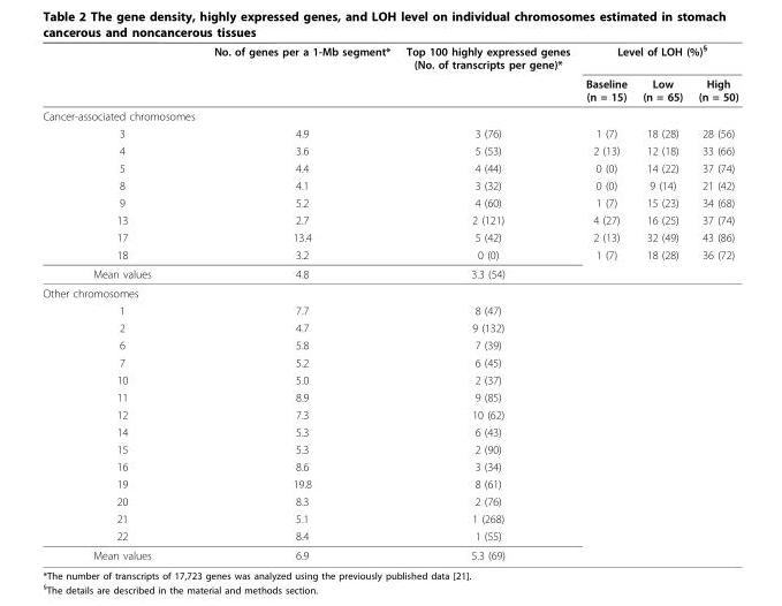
<table><thead><tr><td rowspan="2"></td><td rowspan="2">No. of genes per a 1-Mb segment*</td><td rowspan="2">Top 100 highly expressed genes (No. of transcripts per gene)*</td><td colspan="3">Level of LOH (%)<sup>§</sup></td></tr><tr><td>Baseline (n = 15)</td><td>Low (n = 65)</td><td>High (n = 50)</td></tr></thead><tbody><tr><td colspan="6">Cancer-associated chromosomes</td></tr><tr><td>3</td><td>4.9</td><td>3 (76)</td><td>1 (7)</td><td>18 (28)</td><td>28 (56)</td></tr><tr><td>4</td><td>3.6</td><td>5 (53)</td><td>2 (13)</td><td>12 (18)</td><td>33 (66)</td></tr><tr><td>5</td><td>4.4</td><td>4 (44)</td><td>0 (0)</td><td>14 (22)</td><td>37 (74)</td></tr><tr><td>8</td><td>4.1</td><td>3 (32)</td><td>0 (0)</td><td>9 (14)</td><td>21 (42)</td></tr><tr><td>9</td><td>5.2</td><td>4 (60)</td><td>1 (7)</td><td>15 (23)</td><td>34 (68)</td></tr><tr><td>13</td><td>2.7</td><td>2 (121)</td><td>4 (27)</td><td>16 (25)</td><td>37 (74)</td></tr><tr><td>17</td><td>13.4</td><td>5 (42)</td><td>2 (13)</td><td>32 (49)</td><td>43 (86)</td></tr><tr><td>18</td><td>3.2</td><td>0 (0)</td><td>1 (7)</td><td>18 (28)</td><td>36 (72)</td></tr><tr><td>Mean values</td><td>4.8</td><td>3.3 (54)</td><td></td><td></td><td></td></tr><tr><td colspan="6">Other chromosomes</td></tr><tr><td>1</td><td>7.7</td><td>8 (47)</td><td></td><td></td><td></td></tr><tr><td>2</td><td>4.7</td><td>9 (132)</td><td></td><td></td><td></td></tr><tr><td>6</td><td>5.8</td><td>7 (39)</td><td></td><td></td><td></td></tr><tr><td>7</td><td>5.2</td><td>6 (45)</td><td></td><td></td><td></td></tr><tr><td>10</td><td>5.0</td><td>2 (37)</td><td></td><td></td><td></td></tr><tr><td>11</td><td>8.9</td><td>9 (85)</td><td></td><td></td><td></td></tr><tr><td>12</td><td>7.3</td><td>10 (62)</td><td></td><td></td><td></td></tr><tr><td>14</td><td>5.3</td><td>6 (43)</td><td></td><td></td><td></td></tr><tr><td>15</td><td>5.3</td><td>2 (90)</td><td></td><td></td><td></td></tr><tr><td>16</td><td>8.6</td><td>3 (34)</td><td></td><td></td><td></td></tr><tr><td>19</td><td>19.8</td><td>8 (61)</td><td></td><td></td><td></td></tr><tr><td>20</td><td>8.3</td><td>2 (76)</td><td></td><td></td><td></td></tr><tr><td>21</td><td>5.1</td><td>1 (268)</td><td></td><td></td><td></td></tr><tr><td>22</td><td>8.4</td><td>1 (55)</td><td></td><td></td><td></td></tr><tr><td>Mean values</td><td>6.9</td><td>5.3 (69)</td><td></td><td></td><td></td></tr></tbody></table>